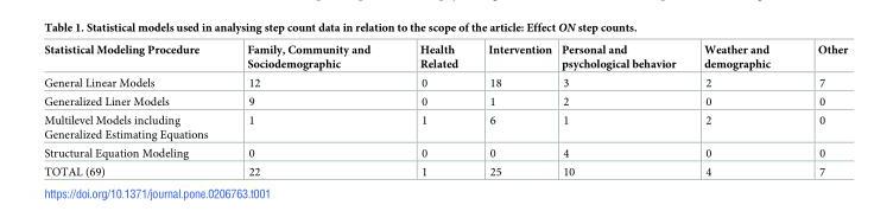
<table><thead><tr><td>Statistical Modeling Procedure</td><td>Family, Community and Sociodemographic</td><td>Health Related</td><td>Intervention</td><td>Personal and psychological behavior</td><td>Weather and demographic</td><td>Other</td></tr></thead><tbody><tr><td>General Linear Models</td><td>12</td><td>0</td><td>18</td><td>3</td><td>2</td><td>7</td></tr><tr><td>Generalized Liner Models</td><td>9</td><td>0</td><td>1</td><td>2</td><td>0</td><td>0</td></tr><tr><td>Multilevel Models including Generalized Estimating Equations</td><td>1</td><td>1</td><td>6</td><td>1</td><td>2</td><td>0</td></tr><tr><td>Structural Equation Modeling</td><td>0</td><td>0</td><td>0</td><td>4</td><td>0</td><td>0</td></tr><tr><td>TOTAL (69)</td><td>22</td><td>1</td><td>25</td><td>10</td><td>4</td><td>7</td></tr></tbody></table>